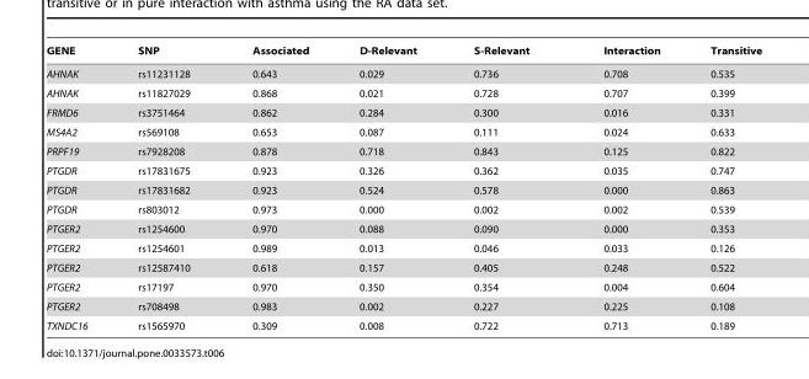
<table><thead><tr><td>GENE</td><td>SNP</td><td>Associated</td><td>D-Relevant</td><td>S-Relevant</td><td>Interaction</td><td>Transitive</td></tr></thead><tbody><tr><td>AHNAK</td><td>rs11231128</td><td>0.643</td><td>0.029</td><td>0.736</td><td>0.708</td><td>0.535</td></tr><tr><td>AHNAK</td><td>rs11827029</td><td>0.868</td><td>0.021</td><td>0.728</td><td>0.707</td><td>0.399</td></tr><tr><td>FRMD6</td><td>rs3751464</td><td>0.862</td><td>0.284</td><td>0.300</td><td>0.016</td><td>0.331</td></tr><tr><td>MS4A2</td><td>rs569108</td><td>0.653</td><td>0.087</td><td>0.111</td><td>0.024</td><td>0.633</td></tr><tr><td>PRPF19</td><td>rs7928208</td><td>0.878</td><td>0.718</td><td>0.843</td><td>0.125</td><td>0.822</td></tr><tr><td>PTGDR</td><td>rs17831675</td><td>0.923</td><td>0.326</td><td>0.362</td><td>0.035</td><td>0.747</td></tr><tr><td>PTGDR</td><td>rs17831682</td><td>0.923</td><td>0.524</td><td>0.578</td><td>0.000</td><td>0.863</td></tr><tr><td>PTGDR</td><td>rs803012</td><td>0.973</td><td>0.000</td><td>0.002</td><td>0.002</td><td>0.539</td></tr><tr><td>PTGER2</td><td>rs1254600</td><td>0.970</td><td>0.088</td><td>0.090</td><td>0.000</td><td>0.353</td></tr><tr><td>PTGER2</td><td>rs1254601</td><td>0.989</td><td>0.013</td><td>0.046</td><td>0.033</td><td>0.126</td></tr><tr><td>PTGER2</td><td>rs12587410</td><td>0.618</td><td>0.157</td><td>0.405</td><td>0.248</td><td>0.522</td></tr><tr><td>PTGER2</td><td>rs17197</td><td>0.970</td><td>0.350</td><td>0.354</td><td>0.004</td><td>0.604</td></tr><tr><td>PTGER2</td><td>rs708498</td><td>0.983</td><td>0.002</td><td>0.227</td><td>0.225</td><td>0.108</td></tr><tr><td>TXNDC16</td><td>rs1565970</td><td>0.309</td><td>0.008</td><td>0.722</td><td>0.713</td><td>0.189</td></tr></tbody></table>